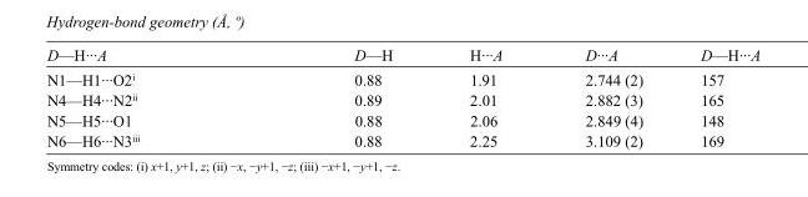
<table><tbody><tr><td>D—H···A</td><td>D—H</td><td>H···A</td><td>D···A</td><td>D—H···A</td></tr><tr><td>N1—H1···O2<sup>i</sup></td><td>0.88</td><td>1.91</td><td>2.744 (2)</td><td>157</td></tr><tr><td>N4—H4···N2<sup>ii</sup></td><td>0.89</td><td>2.01</td><td>2.882 (3)</td><td>165</td></tr><tr><td>N5—H5···O1</td><td>0.88</td><td>2.06</td><td>2.849 (4)</td><td>148</td></tr><tr><td>N6—H6···N3<sup>iii</sup></td><td>0.88</td><td>2.25</td><td>3.109 (2)</td><td>169</td></tr></tbody></table>